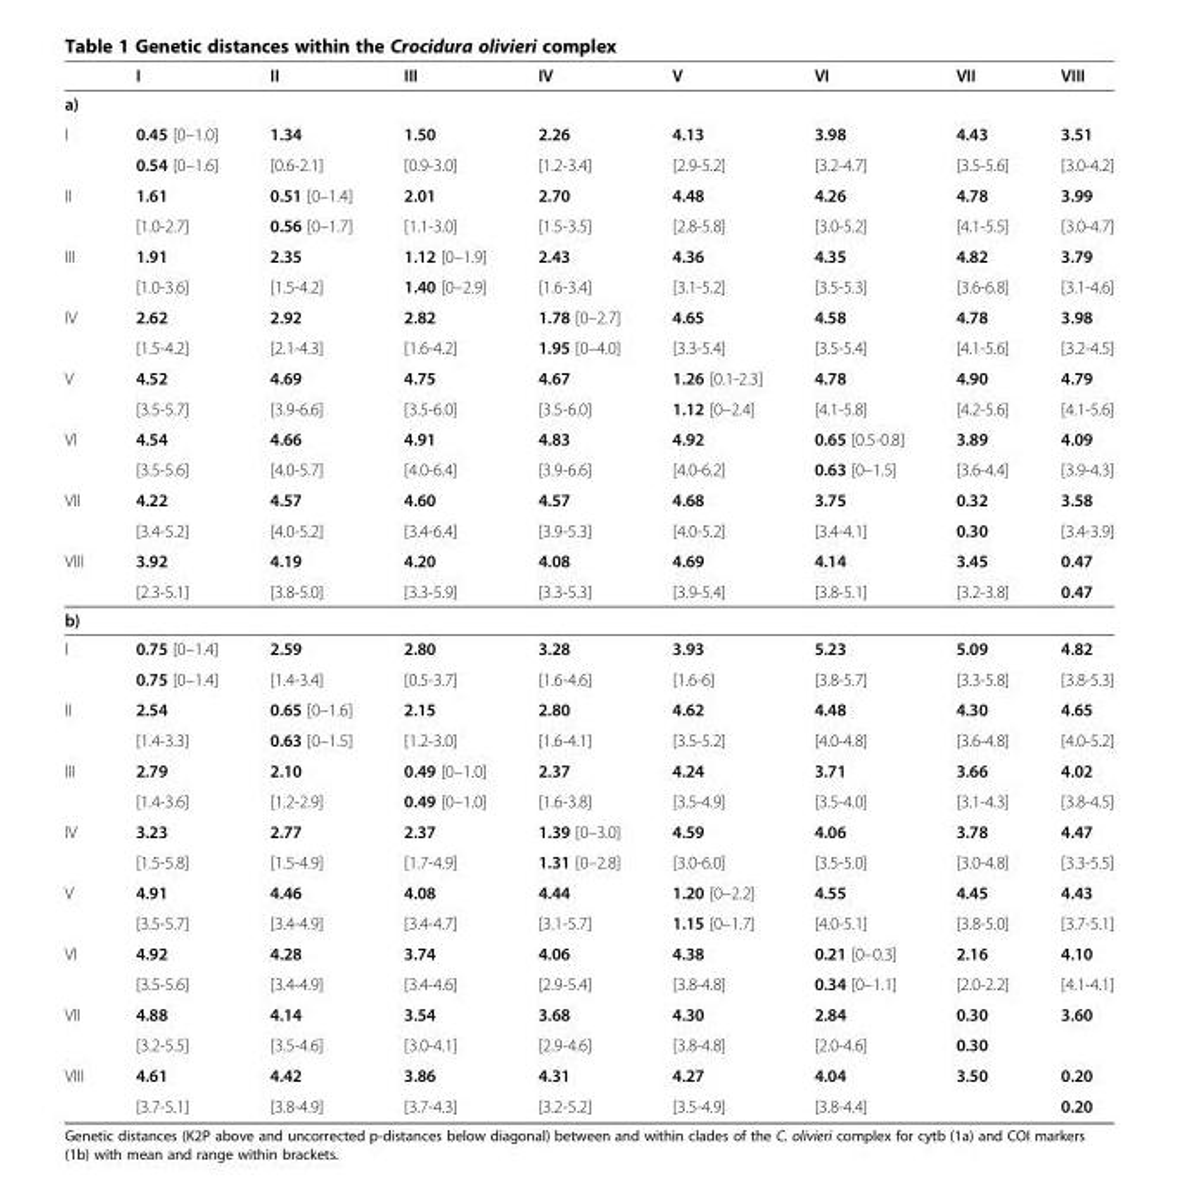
<table><thead><tr><td></td><td>I</td><td>II</td><td>III</td><td>IV</td><td>V</td><td>VI</td><td>VII</td><td>VIII</td></tr></thead><tbody><tr><td colspan="9">a)</td></tr><tr><td rowspan="2">I</td><td>0.45 [0–1.0]</td><td>1.34</td><td>1.50</td><td>2.26</td><td>4.13</td><td>3.98</td><td>4.43</td><td>3.51</td></tr><tr><td>0.54 [0–1.6]</td><td>[0.6-2.1]</td><td>[0.9-3.0]</td><td>[1.2-3.4]</td><td>[2.9-5.2]</td><td>[3.2-4.7]</td><td>[3.5-5.6]</td><td>[3.0-4.2]</td></tr><tr><td rowspan="2">II</td><td>1.61</td><td>0.51 [0–1.4]</td><td>2.01</td><td>2.70</td><td>4.48</td><td>4.26</td><td>4.78</td><td>3.99</td></tr><tr><td>[1.0-2.7]</td><td>0.56 [0–1.7]</td><td>[1.1-3.0]</td><td>[1.5-3.5]</td><td>[2.8-5.8]</td><td>[3.0-5.2]</td><td>[4.1-5.5]</td><td>[3.0-4.7]</td></tr><tr><td rowspan="2">III</td><td>1.91</td><td>2.35</td><td>1.12 [0–1.9]</td><td>2.43</td><td>4.36</td><td>4.35</td><td>4.82</td><td>3.79</td></tr><tr><td>[1.0-3.6]</td><td>[1.5-4.2]</td><td>1.40 [0–2.9]</td><td>[1.6-3.4]</td><td>[3.1-5.2]</td><td>[3.5-5.3]</td><td>[3.6-6.8]</td><td>[3.1-4.6]</td></tr><tr><td rowspan="2">IV</td><td>2.62</td><td>2.92</td><td>2.82</td><td>1.78 [0–2.7]</td><td>4.65</td><td>4.58</td><td>4.78</td><td>3.98</td></tr><tr><td>[1.5-4.2]</td><td>[2.1-4.3]</td><td>[1.6-4.2]</td><td>1.95 [0–4.0]</td><td>[3.3-5.4]</td><td>[3.5-5.4]</td><td>[4.1-5.6]</td><td>[3.2-4.5]</td></tr><tr><td rowspan="2">V</td><td>4.52</td><td>4.69</td><td>4.75</td><td>4.67</td><td>1.26 [0.1-2.3]</td><td>4.78</td><td>4.90</td><td>4.79</td></tr><tr><td>[3.5-5.7]</td><td>[3.9-6.6]</td><td>[3.5-6.0]</td><td>[3.5-6.0]</td><td>1.12 [0–2.4]</td><td>[4.1-5.8]</td><td>[4.2-5.6]</td><td>[4.1-5.6]</td></tr><tr><td rowspan="2">VI</td><td>4.54</td><td>4.66</td><td>4.91</td><td>4.83</td><td>4.92</td><td>0.65 [0.5-0.8]</td><td>3.89</td><td>4.09</td></tr><tr><td>[3.5-5.6]</td><td>[4.0-5.7]</td><td>[4.0-6.4]</td><td>[3.9-6.6]</td><td>[4.0-6.2]</td><td>0.63 [0–1.5]</td><td>[3.6-4.4]</td><td>[3.9-4.3]</td></tr><tr><td rowspan="2">VII</td><td>4.22</td><td>4.57</td><td>4.60</td><td>4.57</td><td>4.68</td><td>3.75</td><td>0.32</td><td>3.58</td></tr><tr><td>[3.4-5.2]</td><td>[4.0-5.2]</td><td>[3.4-6.4]</td><td>[3.9-5.3]</td><td>[4.0-5.2]</td><td>[3.4-4.1]</td><td>0.30</td><td>[3.4-3.9]</td></tr><tr><td rowspan="2">VIII</td><td>3.92</td><td>4.19</td><td>4.20</td><td>4.08</td><td>4.69</td><td>4.14</td><td>3.45</td><td>0.47</td></tr><tr><td>[2.3-5.1]</td><td>[3.8-5.0]</td><td>[3.3-5.9]</td><td>[3.3-5.3]</td><td>[3.9-5.4]</td><td>[3.8-5.1]</td><td>[3.2-3.8]</td><td>0.47</td></tr><tr><td colspan="9">b)</td></tr><tr><td rowspan="2">I</td><td>0.75 [0–1.4]</td><td>2.59</td><td>2.80</td><td>3.28</td><td>3.93</td><td>5.23</td><td>5.09</td><td>4.82</td></tr><tr><td>0.75 [0–1.4]</td><td>[1.4-3.4]</td><td>[0.5-3.7]</td><td>[1.6-4.6]</td><td>[1.6-6]</td><td>[3.8-5.7]</td><td>[3.3-5.8]</td><td>[3.8-5.3]</td></tr><tr><td rowspan="2">II</td><td>2.54</td><td>0.65 [0–1.6]</td><td>2.15</td><td>2.80</td><td>4.62</td><td>4.48</td><td>4.30</td><td>4.65</td></tr><tr><td>[1.4-3.3]</td><td>0.63 [0–1.5]</td><td>[1.2-3.0]</td><td>[1.6-4.1]</td><td>[3.5-5.2]</td><td>[4.0-4.8]</td><td>[3.6-4.8]</td><td>[4.0-5.2]</td></tr><tr><td rowspan="2">III</td><td>2.79</td><td>2.10</td><td>0.49 [0–1.0]</td><td>2.37</td><td>4.24</td><td>3.71</td><td>3.66</td><td>4.02</td></tr><tr><td>[1.4-3.6]</td><td>[1.2-2.9]</td><td>0.49 [0–1.0]</td><td>[1.6-3.8]</td><td>[3.5-4.9]</td><td>[3.5-4.0]</td><td>[3.1-4.3]</td><td>[3.8-4.5]</td></tr><tr><td rowspan="2">IV</td><td>3.23</td><td>2.77</td><td>2.37</td><td>1.39 [0–3.0]</td><td>4.59</td><td>4.06</td><td>3.78</td><td>4.47</td></tr><tr><td>[1.5-5.8]</td><td>[1.5-4.9]</td><td>[1.7-4.9]</td><td>1.31 [0–2.8]</td><td>[3.0-6.0]</td><td>[3.5-5.0]</td><td>[3.0-4.8]</td><td>[3.3-5.5]</td></tr><tr><td rowspan="2">V</td><td>4.91</td><td>4.46</td><td>4.08</td><td>4.44</td><td>1.20 [0–2.2]</td><td>4.55</td><td>4.45</td><td>4.43</td></tr><tr><td>[3.5-5.7]</td><td>[3.4-4.9]</td><td>[3.4-4.7]</td><td>[3.1-5.7]</td><td>1.15 [0–1.7]</td><td>[4.0-5.1]</td><td>[3.8-5.0]</td><td>[3.7-5.1]</td></tr><tr><td rowspan="2">VI</td><td>4.92</td><td>4.28</td><td>3.74</td><td>4.06</td><td>4.38</td><td>0.21 [0–0.3]</td><td>2.16</td><td>4.10</td></tr><tr><td>[3.5-5.6]</td><td>[3.4-4.9]</td><td>[3.4-4.6]</td><td>[2.9-5.4]</td><td>[3.8-4.8]</td><td>0.34 [0–1.1]</td><td>[2.0-2.2]</td><td>[4.1-4.1]</td></tr><tr><td rowspan="2">VII</td><td>4.88</td><td>4.14</td><td>3.54</td><td>3.68</td><td>4.30</td><td>2.84</td><td>0.30</td><td rowspan="2">3.60</td></tr><tr><td>[3.2-5.5]</td><td>[3.5-4.6]</td><td>[3.0-4.1]</td><td>[2.9-4.6]</td><td>[3.8-4.8]</td><td>[2.0-4.6]</td><td>0.30</td></tr><tr><td rowspan="2">VIII</td><td>4.61</td><td>4.42</td><td>3.86</td><td>4.31</td><td>4.27</td><td>4.04</td><td rowspan="2">3.50</td><td>0.20</td></tr><tr><td>[3.7-5.1]</td><td>[3.8-4.9]</td><td>[3.7-4.3]</td><td>[3.2-5.2]</td><td>[3.5-4.9]</td><td>[3.8-4.4]</td><td>0.20</td></tr></tbody></table>